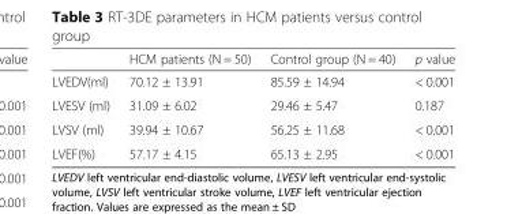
<table><thead><tr><td></td><td>HCM patients (N = 50)</td><td>Control group (N = 40)</td><td>p value</td></tr></thead><tbody><tr><td>LVEDV(ml)</td><td>70.12 ± 13.91</td><td>85.59 ± 14.94</td><td>&lt; 0.001</td></tr><tr><td>LVESV (ml)</td><td>31.09 ± 6.02</td><td>29.46 ± 5.47</td><td>0.187</td></tr><tr><td>LVSV (ml)</td><td>39.94 ± 10.67</td><td>56.25 ± 11.68</td><td>&lt; 0.001</td></tr><tr><td>LVEF(%)</td><td>57.17 ± 4.15</td><td>65.13 ± 2.95</td><td>&lt; 0.001</td></tr></tbody></table>